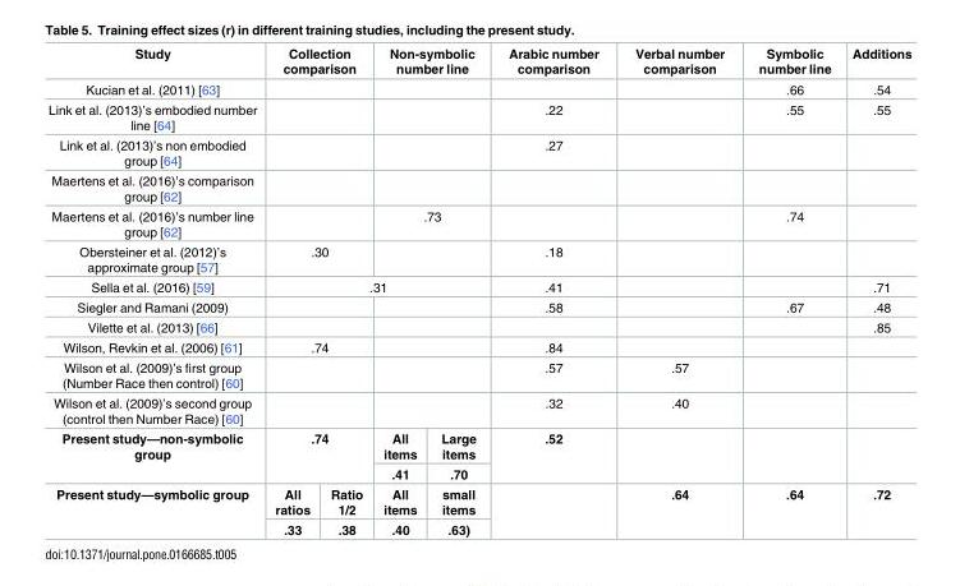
<table><thead><tr><td>Study</td><td colspan="2">Collection comparison</td><td colspan="2">Non-symbolic number line</td><td>Arabic number comparison</td><td>Verbal number comparison</td><td>Symbolic number line</td><td>Additions</td></tr></thead><tbody><tr><td>Kucian et al. (2011) [63]</td><td colspan="2"></td><td colspan="2"></td><td></td><td></td><td>.66</td><td>.54</td></tr><tr><td>Link et al. (2013)’s embodied number line [64]</td><td colspan="2"></td><td colspan="2"></td><td>.22</td><td></td><td>.55</td><td>.55</td></tr><tr><td>Link et al. (2013)’s non embodied group [64]</td><td colspan="2"></td><td colspan="2"></td><td>.27</td><td></td><td></td><td></td></tr><tr><td colspan="9">Maertens et al. (2016)’s comparison group [62]</td></tr><tr><td>Maertens et al. (2016)’s number line group [62]</td><td colspan="2"></td><td colspan="2">.73</td><td></td><td></td><td>.74</td><td></td></tr><tr><td>Obersteiner et al. (2012)’s approximate group [57]</td><td colspan="2">.30</td><td colspan="2"></td><td>.18</td><td></td><td></td><td></td></tr><tr><td>Sella et al. (2016) [59]</td><td colspan="4">.31</td><td>.41</td><td></td><td></td><td>.71</td></tr><tr><td>Siegler and Ramani (2009)</td><td colspan="2"></td><td colspan="2"></td><td>.58</td><td></td><td>.67</td><td>.48</td></tr><tr><td>Vilette et al. (2013) [66]</td><td colspan="2"></td><td colspan="2"></td><td></td><td></td><td></td><td>.85</td></tr><tr><td>Wilson, Revkin et al. (2006) [61]</td><td colspan="2">.74</td><td colspan="2"></td><td>.84</td><td></td><td></td><td></td></tr><tr><td>Wilson et al. (2009)’s first group (Number Race then control) [60]</td><td colspan="2"></td><td colspan="2"></td><td>.57</td><td>.57</td><td></td><td></td></tr><tr><td>Wilson et al. (2009)’s second group (control then Number Race) [60]</td><td colspan="2"></td><td colspan="2"></td><td>.32</td><td>.40</td><td></td><td></td></tr><tr><td rowspan="2">Present study—non-symbolic group</td><td rowspan="2" colspan="2">.74</td><td>All items</td><td>Large items</td><td rowspan="2">.52</td><td rowspan="2"></td><td rowspan="2"></td><td rowspan="2"></td></tr><tr><td>.41</td><td>.70</td></tr><tr><td rowspan="2">Present study—symbolic group</td><td>All ratios</td><td>Ratio 1/2</td><td>All items</td><td>small items</td><td rowspan="2"></td><td rowspan="2">.64</td><td rowspan="2">.64</td><td rowspan="2">.72</td></tr><tr><td>.33</td><td>.38</td><td>.40</td><td>.63)</td></tr></tbody></table>